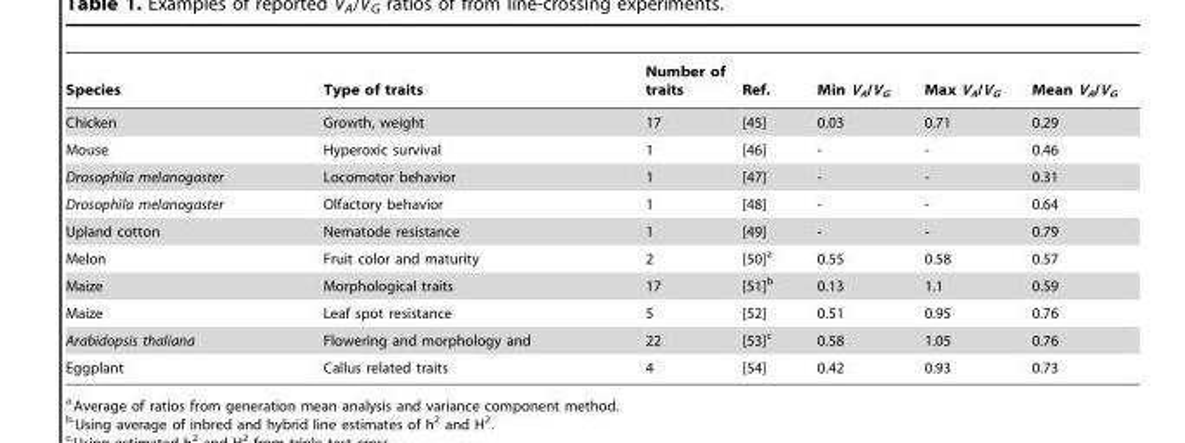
<table><thead><tr><td>Species</td><td>Type of traits</td><td>Number of traits</td><td>Ref.</td><td>Min V<sub>A</sub>/V<sub>G</sub></td><td>Max V<sub>A</sub>/V<sub>G</sub></td><td>Mean V<sub>A</sub>/V<sub>G</sub></td></tr></thead><tbody><tr><td>Chicken</td><td>Growth, weight</td><td>17</td><td>[45]</td><td>0.03</td><td>0.71</td><td>0.29</td></tr><tr><td>Mouse</td><td>Hyperoxic survival</td><td>1</td><td>[46]</td><td>-</td><td>-</td><td>0.46</td></tr><tr><td>Drosophila melanogaster</td><td>Locomotor behavior</td><td>1</td><td>[47]</td><td>-</td><td>-</td><td>0.31</td></tr><tr><td>Drosophila melanogaster</td><td>Olfactory behavior</td><td>1</td><td>[48]</td><td>-</td><td>-</td><td>0.64</td></tr><tr><td>Upland cotton</td><td>Nematode resistance</td><td>1</td><td>[49]</td><td>-</td><td>-</td><td>0.79</td></tr><tr><td>Melon</td><td>Fruit color and maturity</td><td>2</td><td>[50]a</td><td>0.55</td><td>0.58</td><td>0.57</td></tr><tr><td>Maize</td><td>Morphological traits</td><td>17</td><td>[51]b</td><td>0.13</td><td>1.1</td><td>0.59</td></tr><tr><td>Maize</td><td>Leaf spot resistance</td><td>5</td><td>[52]</td><td>0.51</td><td>0.95</td><td>0.76</td></tr><tr><td>Arabidopsis thaliana</td><td>Flowering and morphology and</td><td>22</td><td>[53]c</td><td>0.58</td><td>1.05</td><td>0.76</td></tr><tr><td>Eggplant</td><td>Callus related traits</td><td>4</td><td>[54]</td><td>0.42</td><td>0.93</td><td>0.73</td></tr></tbody></table>